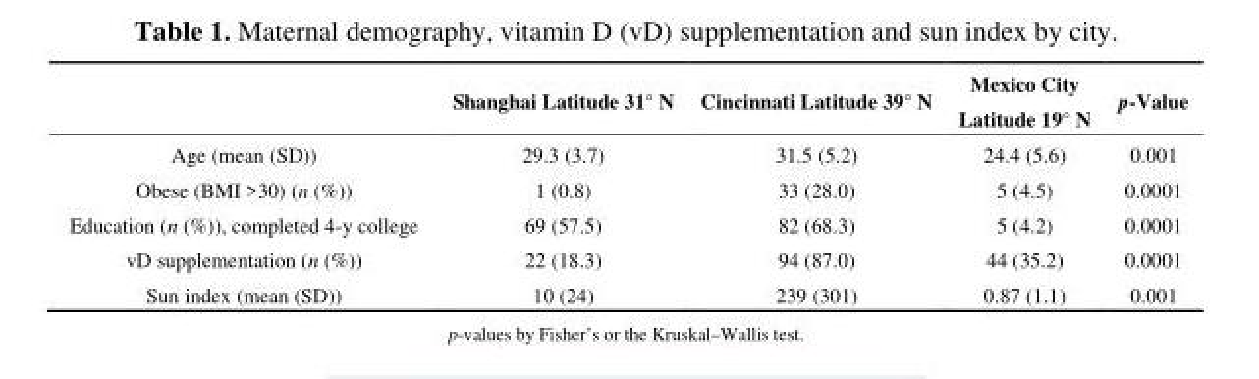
<table><thead><tr><td></td><td>Shanghai Latitude 31° N</td><td>Cincinnati Latitude 39° N</td><td>Mexico City Latitude 19° N</td><td>p-Value</td></tr></thead><tbody><tr><td>Age (mean (SD))</td><td>29.3 (3.7)</td><td>31.5 (5.2)</td><td>24.4 (5.6)</td><td>0.001</td></tr><tr><td>Obese (BMI &gt;30) (n (%))</td><td>1 (0.8)</td><td>33 (28.0)</td><td>5 (4.5)</td><td>0.0001</td></tr><tr><td>Education (n (%)), completed 4-y college</td><td>69 (57.5)</td><td>82 (68.3)</td><td>5 (4.2)</td><td>0.0001</td></tr><tr><td>vD supplementation (n (%))</td><td>22 (18.3)</td><td>94 (87.0)</td><td>44 (35.2)</td><td>0.0001</td></tr><tr><td>Sun index (mean (SD))</td><td>10 (24)</td><td>239 (301)</td><td>0.87 (1.1)</td><td>0.001</td></tr></tbody></table>